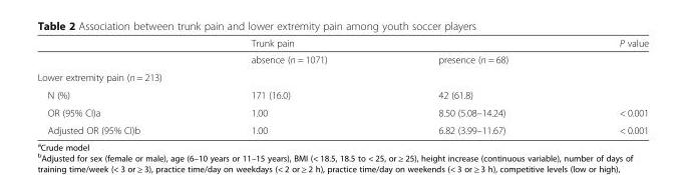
<table><thead><tr><td rowspan="2"></td><td colspan="2">Trunk pain</td><td rowspan="2">P value</td></tr><tr><td>absence (n = 1071)</td><td>presence (n = 68)</td></tr></thead><tbody><tr><td colspan="4">Lower extremity pain (n = 213)</td></tr><tr><td>N (%)</td><td>171 (16.0)</td><td>42 (61.8)</td><td></td></tr><tr><td>OR (95% CI)a</td><td>1.00</td><td>8.50 (5.08–14.24)</td><td>&lt; 0.001</td></tr><tr><td>Adjusted OR (95% CI)b</td><td>1.00</td><td>6.82 (3.99–11.67)</td><td>&lt; 0.001</td></tr></tbody></table>